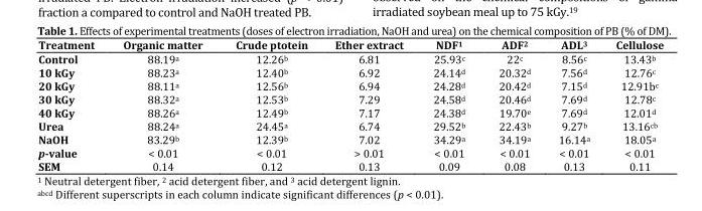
<table><thead><tr><td>Treatment</td><td>Organic matter</td><td>Crude ptotein</td><td>Ether extract</td><td>NDF1</td><td>ADF2</td><td>ADL3</td><td>Cellulose</td></tr></thead><tbody><tr><td>Control</td><td>88.19<sup>a</sup></td><td>12.26<sup>b</sup></td><td>6.81</td><td>25.93<sup>c</sup></td><td>22c</td><td>8.56<sup>c</sup></td><td>13.43<sup>b</sup></td></tr><tr><td>10 kGy</td><td>88.23<sup>a</sup></td><td>12.40<sup>b</sup></td><td>6.92</td><td>24.14<sup>d</sup></td><td>20.32<sup>d</sup></td><td>7.56<sup>d</sup></td><td>12.76<sup>c</sup></td></tr><tr><td>20 kGy</td><td>88.11<sup>a</sup></td><td>12.56<sup>b</sup></td><td>6.94</td><td>24.28<sup>d</sup></td><td>20.42<sup>d</sup></td><td>7.15<sup>d</sup></td><td>12.91<sup>bc</sup></td></tr><tr><td>30 kGy</td><td>88.32<sup>a</sup></td><td>12.53<sup>b</sup></td><td>7.29</td><td>24.58<sup>d</sup></td><td>20.46<sup>d</sup></td><td>7.69<sup>d</sup></td><td>12.78<sup>c</sup></td></tr><tr><td>40 kGy</td><td>88.26<sup>a</sup></td><td>12.49<sup>b</sup></td><td>7.17</td><td>24.38<sup>d</sup></td><td>19.70<sup>e</sup></td><td>7.69<sup>d</sup></td><td>12.01<sup>d</sup></td></tr><tr><td>Urea</td><td>88.24<sup>a</sup></td><td>24.45<sup>a</sup></td><td>6.74</td><td>29.52<sup>b</sup></td><td>22.43<sup>b</sup></td><td>9.27<sup>b</sup></td><td>13.16<sup>cb</sup></td></tr><tr><td>NaOH</td><td>83.29<sup>b</sup></td><td>12.39<sup>b</sup></td><td>7.02</td><td>34.29<sup>a</sup></td><td>34.19<sup>a</sup></td><td>16.14<sup>a</sup></td><td>18.05<sup>a</sup></td></tr><tr><td>p-value</td><td>&lt; 0.01</td><td>&lt; 0.01</td><td>&gt; 0.01</td><td>&lt; 0.01</td><td>&lt; 0.01</td><td>&lt; 0.01</td><td>&lt; 0.01</td></tr><tr><td>SEM</td><td>0.14</td><td>0.12</td><td>0.13</td><td>0.09</td><td>0.08</td><td>0.13</td><td>0.11</td></tr></tbody></table>